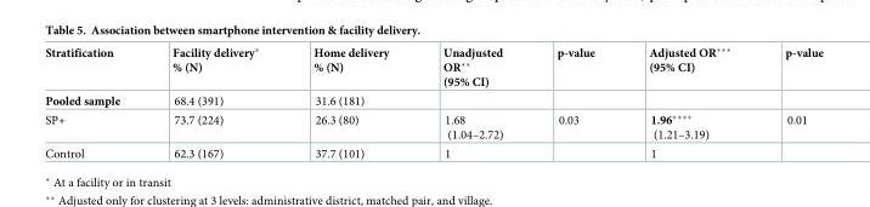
<table><thead><tr><td>Stratification</td><td>Facility delivery* % (N)</td><td>Home delivery % (N)</td><td>Unadjusted OR** (95% CI)</td><td>p-value</td><td>Adjusted OR*** (95% CI)</td><td>p-value</td></tr></thead><tbody><tr><td>Pooled sample</td><td>68.4 (391)</td><td>31.6 (181)</td><td></td><td></td><td></td><td></td></tr><tr><td>SP+</td><td>73.7 (224)</td><td>26.3 (80)</td><td>1.68 (1.04–2.72)</td><td>0.03</td><td>1.96**** (1.21–3.19)</td><td>0.01</td></tr><tr><td>Control</td><td>62.3 (167)</td><td>37.7 (101)</td><td>1</td><td></td><td>1</td><td></td></tr></tbody></table>